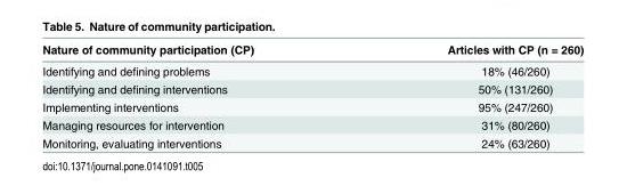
<table><thead><tr><td>Nature of community participation (CP)</td><td>Articles with CP (n = 260)</td></tr></thead><tbody><tr><td>Identifying and defining problems</td><td>18% (46/260)</td></tr><tr><td>Identifying and defining interventions</td><td>50% (131/260)</td></tr><tr><td>Implementing interventions</td><td>95% (247/260)</td></tr><tr><td>Managing resources for intervention</td><td>31% (80/260)</td></tr><tr><td>Monitoring, evaluating interventions</td><td>24% (63/260)</td></tr></tbody></table>